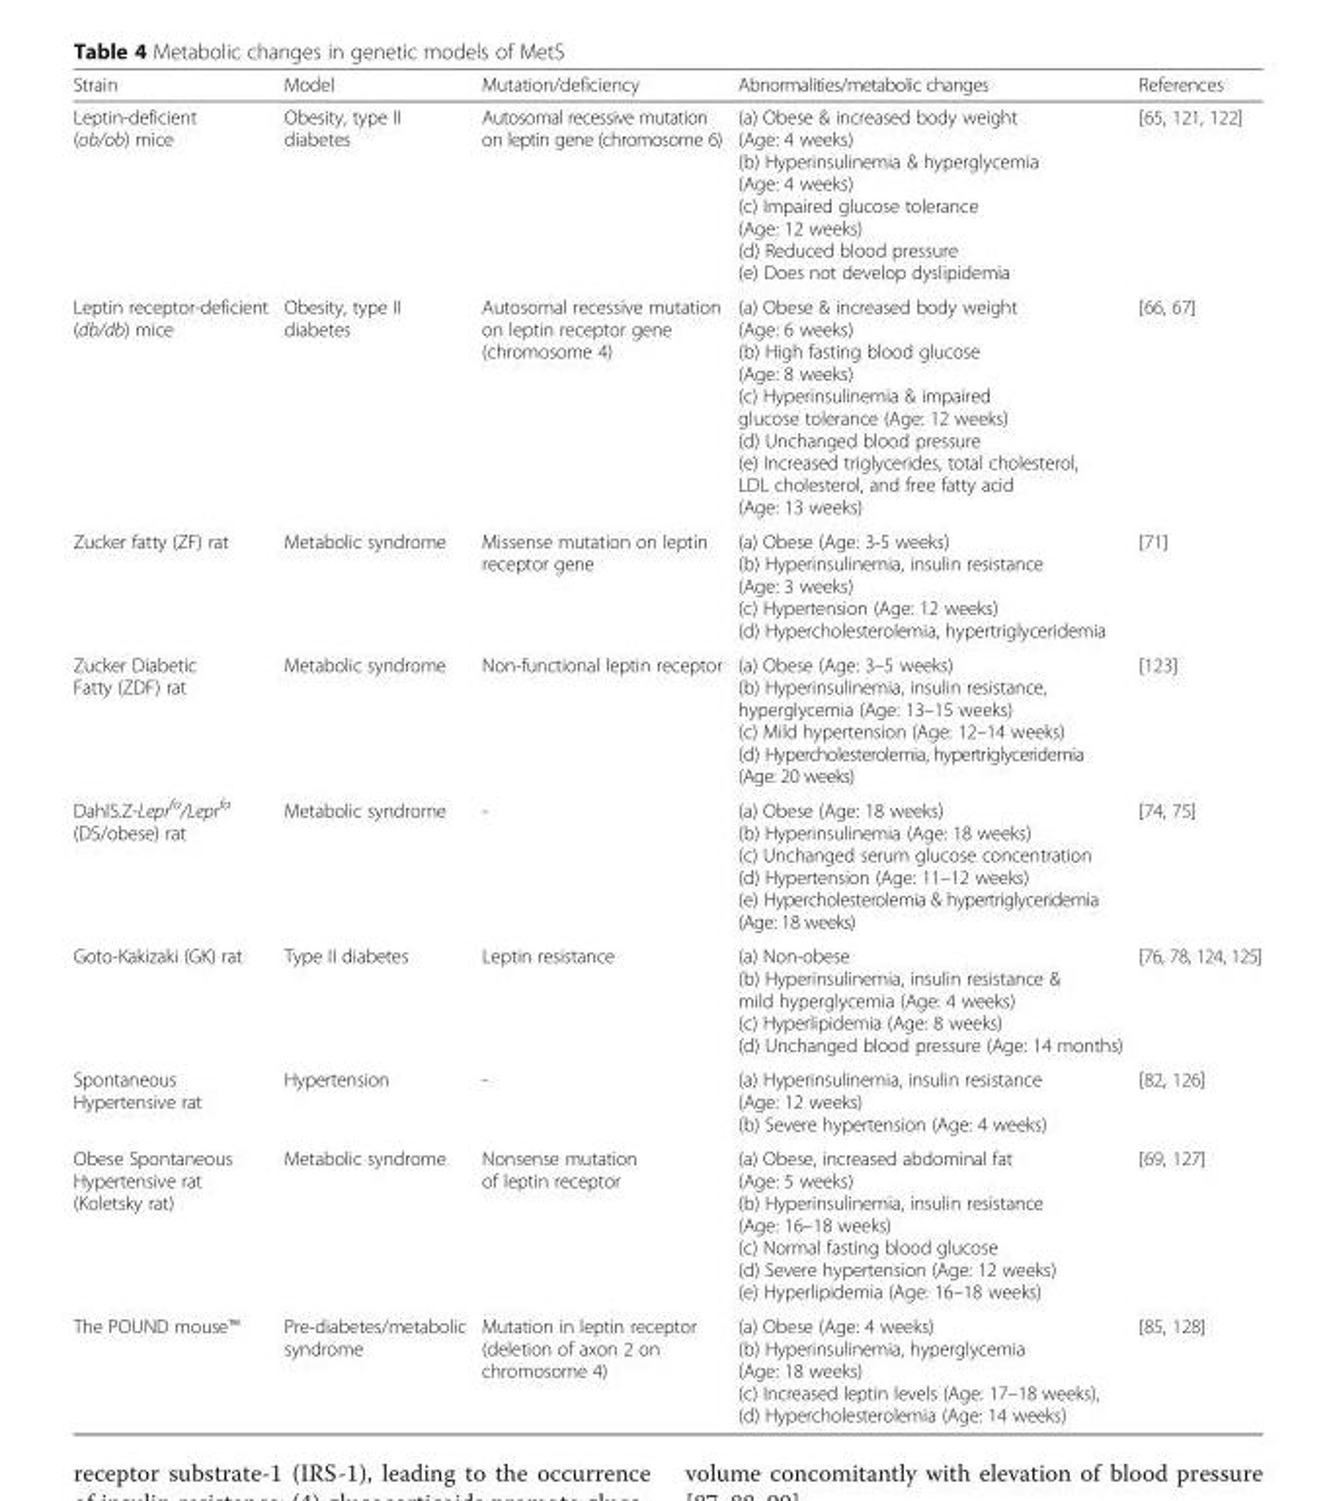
<table><thead><tr><td>Strain</td><td>Model</td><td>Mutation/deficiency</td><td>Abnormalities/metabolic changes</td><td>References</td></tr></thead><tbody><tr><td>Leptin-deficient (ob/ob) mice</td><td>Obesity, type II diabetes</td><td>Autosomal recessive mutation on leptin gene (chromosome 6)</td><td>(a) Obese &amp; increased body weight (Age: 4 weeks) (b) Hyperinsulinemia &amp; hyperglycemia (Age: 4 weeks) (c) Impaired glucose tolerance (Age: 12 weeks) (d) Reduced blood pressure (e) Does not develop dyslipidemia</td><td>[65, 121, 122]</td></tr><tr><td>Leptin receptor-deficient (db/db) mice</td><td>Obesity, type II diabetes</td><td>Autosomal recessive mutation on leptin receptor gene (chromosome 4)</td><td>(a) Obese &amp; increased body weight (Age: 6 weeks) (b) High fasting blood glucose (Age: 8 weeks) (c) Hyperinsulinemia &amp; impaired glucose tolerance (Age: 12 weeks) (d) Unchanged blood pressure (e) Increased triglycerides, total cholesterol, LDL cholesterol, and free fatty acid (Age: 13 weeks)</td><td>[66, 67]</td></tr><tr><td>Zucker fatty (ZF) rat</td><td>Metabolic syndrome</td><td>Missense mutation on leptin receptor gene</td><td>(a) Obese (Age: 3-5 weeks) (b) Hyperinsulinemia, insulin resistance (Age: 3 weeks) (c) Hypertension (Age: 12 weeks) (d) Hypercholesterolemia, hypertriglyceridemia</td><td>[71]</td></tr><tr><td>Zucker Diabetic Fatty (ZDF) rat</td><td>Metabolic syndrome</td><td>Non-functional leptin receptor</td><td>(a) Obese (Age: 3–5 weeks) (b) Hyperinsulinemia, insulin resistance, hyperglycemia (Age: 13–15 weeks) (c) Mild hypertension (Age: 12–14 weeks) (d) Hypercholesterolemia, hypertriglyceridemia (Age: 20 weeks)</td><td>[123]</td></tr><tr><td>DahlS.Z-Lepr<sup>fa</sup>/Lepr<sup>fa</sup> (DS/obese) rat</td><td>Metabolic syndrome</td><td>-</td><td>(a) Obese (Age: 18 weeks) (b) Hyperinsulinemia (Age: 18 weeks) (c) Unchanged serum glucose concentration (d) Hypertension (Age: 11–12 weeks) (e) Hypercholesterolemia &amp; hypertriglyceridemia (Age: 18 weeks)</td><td>[74, 75]</td></tr><tr><td>Goto-Kakizaki (GK) rat</td><td>Type II diabetes</td><td>Leptin resistance</td><td>(a) Non-obese (b) Hyperinsulinemia, insulin resistance &amp; mild hyperglycemia (Age: 4 weeks) (c) Hyperlipidemia (Age: 8 weeks) (d) Unchanged blood pressure (Age: 14 months)</td><td>[76, 78, 124, 125]</td></tr><tr><td>Spontaneous Hypertensive rat</td><td>Hypertension</td><td>-</td><td>(a) Hyperinsulinemia, insulin resistance (Age: 12 weeks) (b) Severe hypertension (Age: 4 weeks)</td><td>[82, 126]</td></tr><tr><td>Obese Spontaneous Hypertensive rat (Koletsky rat)</td><td>Metabolic syndrome</td><td>Nonsense mutation of leptin receptor</td><td>(a) Obese, increased abdominal fat (Age: 5 weeks) (b) Hyperinsulinemia, insulin resistance (Age: 16–18 weeks) (c) Normal fasting blood glucose (d) Severe hypertension (Age: 12 weeks) (e) Hyperlipidemia (Age: 16–18 weeks)</td><td>[69, 127]</td></tr><tr><td>The POUND mouse™</td><td>Pre-diabetes/metabolic syndrome</td><td>Mutation in leptin receptor (deletion of axon 2 on chromosome 4)</td><td>(a) Obese (Age: 4 weeks) (b) Hyperinsulinemia, hyperglycemia (Age: 18 weeks) (c) Increased leptin levels (Age: 17–18 weeks), (d) Hypercholesterolemia (Age: 14 weeks)</td><td>[85, 128]</td></tr></tbody></table>